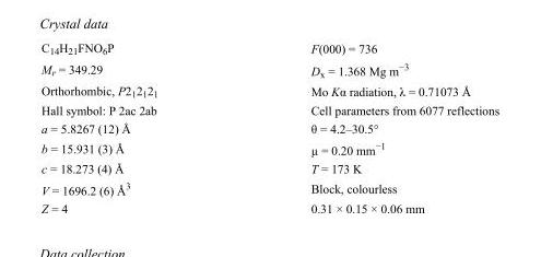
<table><tbody><tr><td>C<sub>14</sub>H<sub>21</sub>FNO<sub>6</sub>P</td><td>F(000) = 736</td></tr><tr><td>M<sub>r</sub> = 349.29</td><td>D<sub>x</sub> = 1.368 Mg m<sup>−3</sup></td></tr><tr><td>Orthorhombic, P2<sub>1</sub>2<sub>1</sub>2<sub>1</sub></td><td>Mo Kα radiation, λ = 0.71073 Å</td></tr><tr><td>Hall symbol: P 2ac 2ab</td><td>Cell parameters from 6077 reflections</td></tr><tr><td>a = 5.8267 (12) Å</td><td>θ = 4.2–30.5°</td></tr><tr><td>b = 15.931 (3) Å</td><td>µ = 0.20 mm<sup>−1</sup></td></tr><tr><td>c = 18.273 (4) Å</td><td>T = 173 K</td></tr><tr><td>V = 1696.2 (6) Å<sup>3</sup></td><td>Block, colourless</td></tr><tr><td>Z = 4</td><td>0.31 × 0.15 × 0.06 mm</td></tr></tbody></table>